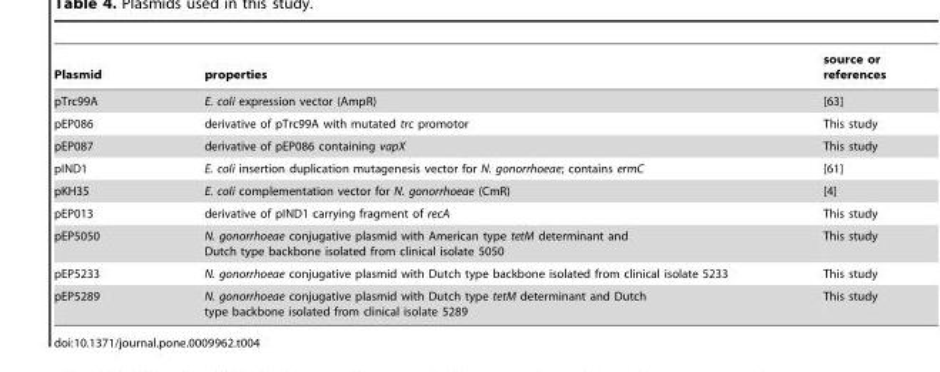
<table><thead><tr><td>Plasmid</td><td>properties</td><td>source or references</td></tr></thead><tbody><tr><td>pTrc99A</td><td>E. coli expression vector (AmpR)</td><td>[63]</td></tr><tr><td>pEP086</td><td>derivative of pTrc99A with mutated trc promotor</td><td>This study</td></tr><tr><td>pEP087</td><td>derivative of pEP086 containing vapX</td><td>This study</td></tr><tr><td>pIND1</td><td>E. coli insertion duplication mutagenesis vector for N. gonorrhoeae; contains ermC</td><td>[61]</td></tr><tr><td>pKH35</td><td>E. coli complementation vector for N. gonorrhoeae (CmR)</td><td>[4]</td></tr><tr><td>pEP013</td><td>derivative of pIND1 carrying fragment of recA</td><td>This study</td></tr><tr><td>pEP5050</td><td>N. gonorrhoeae conjugative plasmid with American type tetM determinant and Dutch type backbone isolated from clinical isolate 5050</td><td>This study</td></tr><tr><td>pEP5233</td><td>N. gonorrhoeae conjugative plasmid with Dutch type backbone isolated from clinical isolate 5233</td><td>This study</td></tr><tr><td>pEP5289</td><td>N. gonorrhoeae conjugative plasmid with Dutch type tetM determinant and Dutch type backbone isolated from clinical isolate 5289</td><td>This study</td></tr></tbody></table>